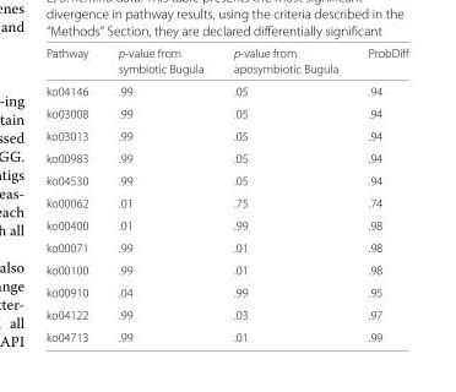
<table><thead><tr><td rowspan="2">Pathway</td><td rowspan="2">p-value from symbiotic Bugula</td><td rowspan="2">p-value from aposymbiotic Bugula</td><td rowspan="2">ProbDiff</td></tr><tr></tr></thead><tbody><tr><td>ko04146</td><td>.99</td><td>.05</td><td>.94</td></tr><tr><td>ko03008</td><td>.99</td><td>.05</td><td>.94</td></tr><tr><td>ko03013</td><td>.99</td><td>.05</td><td>.94</td></tr><tr><td>ko00983</td><td>.99</td><td>.05</td><td>.94</td></tr><tr><td>ko04530</td><td>.99</td><td>.05</td><td>.94</td></tr><tr><td>ko00062</td><td>.01</td><td>.75</td><td>.74</td></tr><tr><td>ko00400</td><td>.01</td><td>.99</td><td>.98</td></tr><tr><td>ko00071</td><td>.99</td><td>.01</td><td>.98</td></tr><tr><td>ko00100</td><td>.99</td><td>.01</td><td>.98</td></tr><tr><td>ko00910</td><td>.04</td><td>.99</td><td>.95</td></tr><tr><td>ko04122</td><td>.99</td><td>.03</td><td>.97</td></tr><tr><td>ko04713</td><td>.99</td><td>.01</td><td>.99</td></tr></tbody></table>